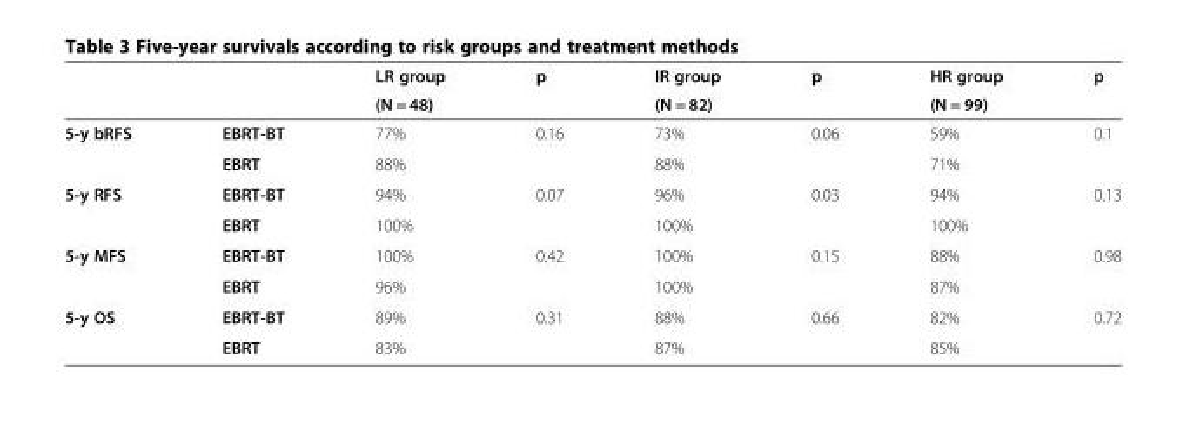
<table><thead><tr><td rowspan="2"></td><td rowspan="2"></td><td rowspan="2">LR group (N = 48)</td><td rowspan="2">p</td><td rowspan="2">IR group (N = 82)</td><td rowspan="2">p</td><td rowspan="2">HR group (N = 99)</td><td rowspan="2">p</td></tr><tr></tr></thead><tbody><tr><td rowspan="2">5-y bRFS</td><td>EBRT-BT</td><td>77%</td><td rowspan="2">0.16</td><td>73%</td><td rowspan="2">0.06</td><td>59%</td><td rowspan="2">0.1</td></tr><tr><td>EBRT</td><td>88%</td><td>88%</td><td>71%</td></tr><tr><td rowspan="2">5-y RFS</td><td>EBRT-BT</td><td>94%</td><td rowspan="2">0.07</td><td>96%</td><td rowspan="2">0.03</td><td>94%</td><td rowspan="2">0.13</td></tr><tr><td>EBRT</td><td>100%</td><td>100%</td><td>100%</td></tr><tr><td rowspan="2">5-y MFS</td><td>EBRT-BT</td><td>100%</td><td rowspan="2">0.42</td><td>100%</td><td rowspan="2">0.15</td><td>88%</td><td rowspan="2">0.98</td></tr><tr><td>EBRT</td><td>96%</td><td>100%</td><td>87%</td></tr><tr><td rowspan="2">5-y OS</td><td>EBRT-BT</td><td>89%</td><td rowspan="2">0.31</td><td>88%</td><td rowspan="2">0.66</td><td>82%</td><td rowspan="2">0.72</td></tr><tr><td>EBRT</td><td>83%</td><td>87%</td><td>85%</td></tr></tbody></table>